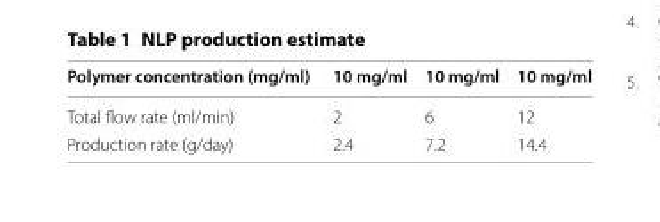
<table><thead><tr><td>Polymer concentration (mg/ml)</td><td>10 mg/ml</td><td>10 mg/ml</td><td>10 mg/ml</td></tr></thead><tbody><tr><td>Total flow rate (ml/min)</td><td>2</td><td>6</td><td>12</td></tr><tr><td>Production rate (g/day)</td><td>2.4</td><td>7.2</td><td>14.4</td></tr></tbody></table>